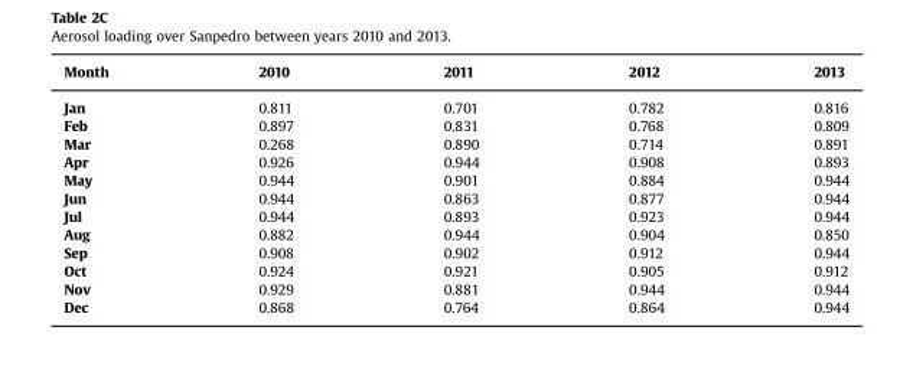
<table><thead><tr><td>Month</td><td>2010</td><td>2011</td><td>2012</td><td>2013</td></tr></thead><tbody><tr><td>Jan</td><td>0.811</td><td>0.701</td><td>0.782</td><td>0.816</td></tr><tr><td>Feb</td><td>0.897</td><td>0.831</td><td>0.768</td><td>0.809</td></tr><tr><td>Mar</td><td>0.268</td><td>0.890</td><td>0.714</td><td>0.891</td></tr><tr><td>Apr</td><td>0.926</td><td>0.944</td><td>0.908</td><td>0.893</td></tr><tr><td>May</td><td>0.944</td><td>0.901</td><td>0.884</td><td>0.944</td></tr><tr><td>Jun</td><td>0.944</td><td>0.863</td><td>0.877</td><td>0.944</td></tr><tr><td>Jul</td><td>0.944</td><td>0.893</td><td>0.923</td><td>0.944</td></tr><tr><td>Aug</td><td>0.882</td><td>0.944</td><td>0.904</td><td>0.850</td></tr><tr><td>Sep</td><td>0.908</td><td>0.902</td><td>0.912</td><td>0.944</td></tr><tr><td>Oct</td><td>0.924</td><td>0.921</td><td>0.905</td><td>0.912</td></tr><tr><td>Nov</td><td>0.929</td><td>0.881</td><td>0.944</td><td>0.944</td></tr><tr><td>Dec</td><td>0.868</td><td>0.764</td><td>0.864</td><td>0.944</td></tr></tbody></table>